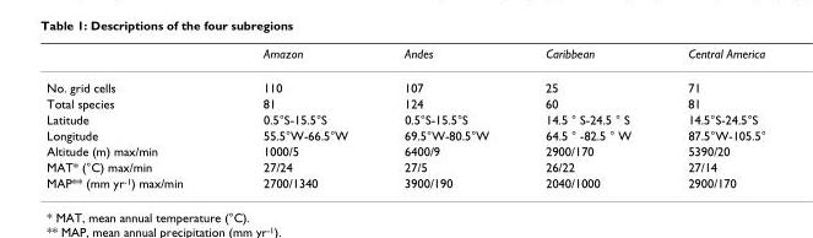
<table><thead><tr><td></td><td>Amazon</td><td>Andes</td><td>Caribbean</td><td>Central America</td></tr></thead><tbody><tr><td>No. grid cells</td><td>110</td><td>107</td><td>25</td><td>71</td></tr><tr><td>Total species</td><td>81</td><td>124</td><td>60</td><td>81</td></tr><tr><td>Latitude</td><td>0.5°S-15.5°S</td><td>0.5°S-15.5°S</td><td>14.5 ° S-24.5 ° S</td><td>14.5°S-24.5°S</td></tr><tr><td>Longitude</td><td>55.5°W-66.5°W</td><td>69.5°W-80.5°W</td><td>64.5 ° -82.5 ° W</td><td>87.5°W-105.5°</td></tr><tr><td>Altitude (m) max/min</td><td>1000/5</td><td>6400/9</td><td>2900/170</td><td>5390/20</td></tr><tr><td>MAT* (°C) max/min</td><td>27/24</td><td>27/5</td><td>26/22</td><td>27/14</td></tr><tr><td>MAP** (mm yr<sup>-1</sup>) max/min</td><td>2700/1340</td><td>3900/190</td><td>2040/1000</td><td>2900/170</td></tr></tbody></table>